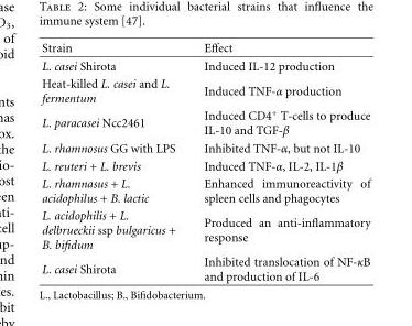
<table><thead><tr><td>Strain</td><td>Effect</td></tr></thead><tbody><tr><td>L. casei Shirota</td><td>Induced IL-12 production</td></tr><tr><td>Heat-killed L. casei and L. fermentum</td><td>Induced TNF-α production</td></tr><tr><td>L. paracasei Ncc2461</td><td>Induced CD4<sup>+</sup> T-cells to produce IL-10 and TGF-β</td></tr><tr><td>L. rhamnosus GG with LPS</td><td>Inhibited TNF-α, but not IL-10</td></tr><tr><td>L. reuteri + L. brevis</td><td>Induced TNF-α, IL-2, IL-1β</td></tr><tr><td>L. rhamnasus + L. acidophilus + B. lactic</td><td>Enhanced immunoreactivity of spleen cells and phagocytes</td></tr><tr><td>L. acidophilis + L. delbrueckii ssp bulgaricus + B. bifidum</td><td>Produced an anti-inflammatory response</td></tr><tr><td>L. casei Shirota</td><td>Inhibited translocation of NF-κB and production of IL-6</td></tr></tbody></table>